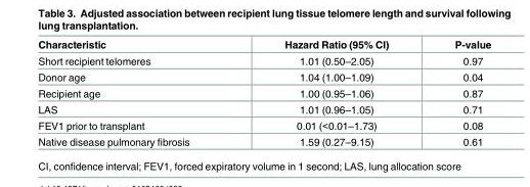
<table><thead><tr><td>Characteristic</td><td>Hazard Ratio (95% CI)</td><td>P-value</td></tr></thead><tbody><tr><td>Short recipient telomeres</td><td>1.01 (0.50–2.05)</td><td>0.97</td></tr><tr><td>Donor age</td><td>1.04 (1.00–1.09)</td><td>0.04</td></tr><tr><td>Recipient age</td><td>1.00 (0.95–1.06)</td><td>0.87</td></tr><tr><td>LAS</td><td>1.01 (0.96–1.05)</td><td>0.71</td></tr><tr><td>FEV1 prior to transplant</td><td>0.01 (&lt;0.01–1.73)</td><td>0.08</td></tr><tr><td>Native disease pulmonary fibrosis</td><td>1.59 (0.27–9.15)</td><td>0.61</td></tr></tbody></table>